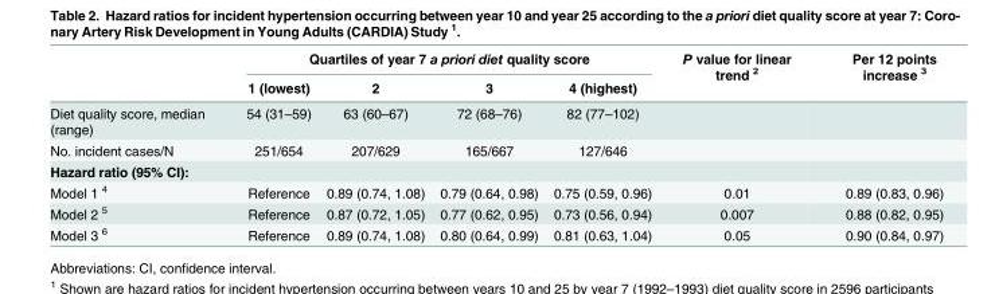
<table><thead><tr><td rowspan="2"></td><td colspan="4">Quartiles of year 7 a priori diet quality score</td><td rowspan="2">P value for linear trend <sup>2</sup></td><td rowspan="2">Per 12 points increase <sup>3</sup></td></tr><tr><td>1 (lowest)</td><td>2</td><td>3</td><td>4 (highest)</td></tr></thead><tbody><tr><td>Diet quality score, median (range)</td><td>54 (31–59)</td><td>63 (60–67)</td><td>72 (68–76)</td><td>82 (77–102)</td><td></td><td></td></tr><tr><td>No. incident cases/N</td><td>251/654</td><td>207/629</td><td>165/667</td><td>127/646</td><td></td><td></td></tr><tr><td colspan="7">Hazard ratio (95% CI):</td></tr><tr><td>Model 1 <sup>4</sup></td><td>Reference</td><td>0.89 (0.74, 1.08)</td><td>0.79 (0.64, 0.98)</td><td>0.75 (0.59, 0.96)</td><td>0.01</td><td>0.89 (0.83, 0.96)</td></tr><tr><td>Model 2 <sup>5</sup></td><td>Reference</td><td>0.87 (0.72, 1.05)</td><td>0.77 (0.62, 0.95)</td><td>0.73 (0.56, 0.94)</td><td>0.007</td><td>0.88 (0.82, 0.95)</td></tr><tr><td>Model 3 <sup>6</sup></td><td>Reference</td><td>0.89 (0.74, 1.08)</td><td>0.80 (0.64, 0.99)</td><td>0.81 (0.63, 1.04)</td><td>0.05</td><td>0.90 (0.84, 0.97)</td></tr></tbody></table>